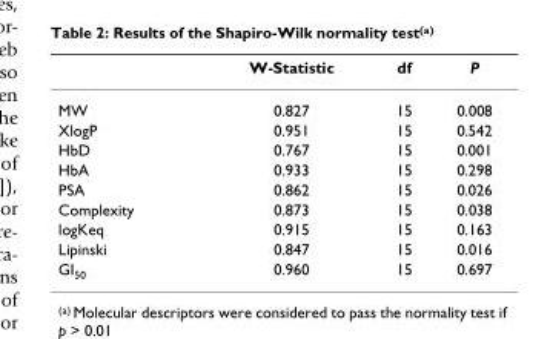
<table><thead><tr><td></td><td>W-Statistic</td><td>df</td><td>P</td></tr></thead><tbody><tr><td>MW</td><td>0.827</td><td>15</td><td>0.008</td></tr><tr><td>XlogP</td><td>0.951</td><td>15</td><td>0.542</td></tr><tr><td>HbD</td><td>0.767</td><td>15</td><td>0.001</td></tr><tr><td>HbA</td><td>0.933</td><td>15</td><td>0.298</td></tr><tr><td>PSA</td><td>0.862</td><td>15</td><td>0.026</td></tr><tr><td>Complexity</td><td>0.873</td><td>15</td><td>0.038</td></tr><tr><td>logKeq</td><td>0.915</td><td>15</td><td>0.163</td></tr><tr><td>Lipinski</td><td>0.847</td><td>15</td><td>0.016</td></tr><tr><td>GI<sub>50</sub></td><td>0.960</td><td>15</td><td>0.697</td></tr></tbody></table>